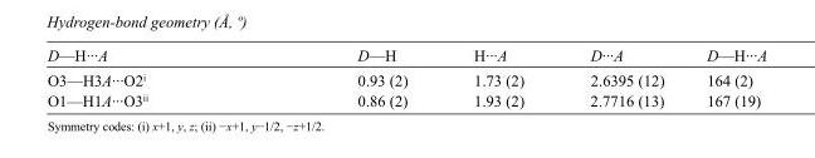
<table><tbody><tr><td>D—H···A</td><td>D—H</td><td>H···A</td><td>D···A</td><td>D—H···A</td></tr><tr><td>O3—H3A···O2<sup>i</sup></td><td>0.93 (2)</td><td>1.73 (2)</td><td>2.6395 (12)</td><td>164 (2)</td></tr><tr><td>O1—H1A···O3<sup>ii</sup></td><td>0.86 (2)</td><td>1.93 (2)</td><td>2.7716 (13)</td><td>167 (19)</td></tr></tbody></table>